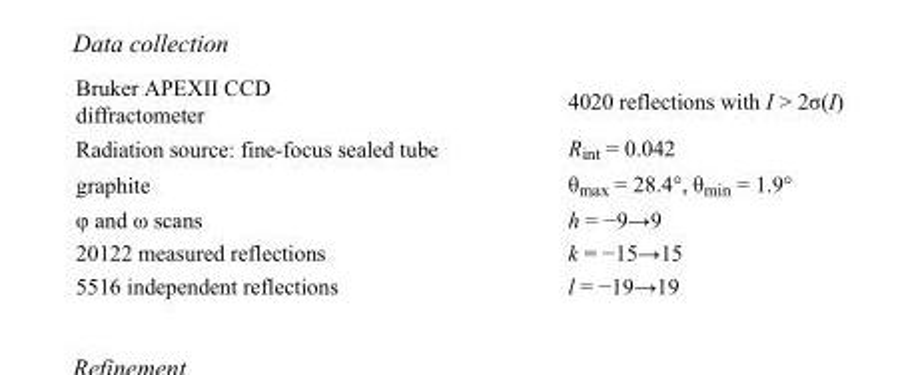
<table><tbody><tr><td>Bruker APEXII CCD diffractometer</td><td>4020 reflections with I &gt; 2σ(I)</td></tr><tr><td>Radiation source: fine-focus sealed tube</td><td>R<sub>int</sub> = 0.042</td></tr><tr><td>graphite</td><td>θ<sub>max</sub> = 28.4°, θ<sub>min</sub> = 1.9°</td></tr><tr><td>φ and ω scans</td><td>h = −9→9</td></tr><tr><td>20122 measured reflections</td><td>k = −15→15</td></tr><tr><td>5516 independent reflections</td><td>l = −19→19</td></tr></tbody></table>